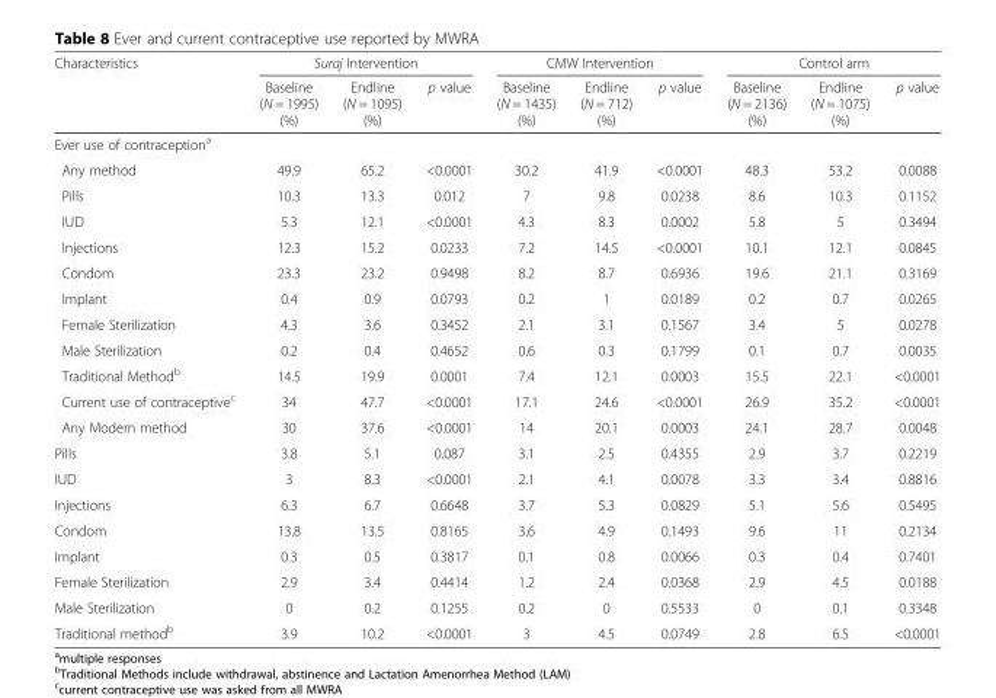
<table><thead><tr><td rowspan="2">Characteristics</td><td colspan="3">Suraj Intervention</td><td colspan="3">CMW Intervention</td><td colspan="3">Control arm</td></tr><tr><td>Baseline (N = 1995) (%)</td><td>Endline (N = 1095) (%)</td><td>p value</td><td>Baseline (N = 1435) (%)</td><td>Endline (N = 712) (%)</td><td>p value</td><td>Baseline (N = 2136) (%)</td><td>Endline (N = 1075) (%)</td><td>p value</td></tr></thead><tbody><tr><td colspan="10">Ever use of contraception<sup>a</sup></td></tr><tr><td>Any method</td><td>49.9</td><td>65.2</td><td>&lt;0.0001</td><td>30.2</td><td>41.9</td><td>&lt;0.0001</td><td>48.3</td><td>53.2</td><td>0.0088</td></tr><tr><td>Pills</td><td>10.3</td><td>13.3</td><td>0.012</td><td>7</td><td>9.8</td><td>0.0238</td><td>8.6</td><td>10.3</td><td>0.1152</td></tr><tr><td>IUD</td><td>5.3</td><td>12.1</td><td>&lt;0.0001</td><td>4.3</td><td>8.3</td><td>0.0002</td><td>5.8</td><td>5</td><td>0.3494</td></tr><tr><td>Injections</td><td>12.3</td><td>15.2</td><td>0.0233</td><td>7.2</td><td>14.5</td><td>&lt;0.0001</td><td>10.1</td><td>12.1</td><td>0.0845</td></tr><tr><td>Condom</td><td>23.3</td><td>23.2</td><td>0.9498</td><td>8.2</td><td>8.7</td><td>0.6936</td><td>19.6</td><td>21.1</td><td>0.3169</td></tr><tr><td>Implant</td><td>0.4</td><td>0.9</td><td>0.0793</td><td>0.2</td><td>1</td><td>0.0189</td><td>0.2</td><td>0.7</td><td>0.0265</td></tr><tr><td>Female Sterilization</td><td>4.3</td><td>3.6</td><td>0.3452</td><td>2.1</td><td>3.1</td><td>0.1567</td><td>3.4</td><td>5</td><td>0.0278</td></tr><tr><td>Male Sterilization</td><td>0.2</td><td>0.4</td><td>0.4652</td><td>0.6</td><td>0.3</td><td>0.1799</td><td>0.1</td><td>0.7</td><td>0.0035</td></tr><tr><td>Traditional Method<sup>b</sup></td><td>14.5</td><td>19.9</td><td>0.0001</td><td>7.4</td><td>12.1</td><td>0.0003</td><td>15.5</td><td>22.1</td><td>&lt;0.0001</td></tr><tr><td>Current use of contraceptive<sup>c</sup></td><td>34</td><td>47.7</td><td>&lt;0.0001</td><td>17.1</td><td>24.6</td><td>&lt;0.0001</td><td>26.9</td><td>35.2</td><td>&lt;0.0001</td></tr><tr><td>Any Modern method</td><td>30</td><td>37.6</td><td>&lt;0.0001</td><td>14</td><td>20.1</td><td>0.0003</td><td>24.1</td><td>28.7</td><td>0.0048</td></tr><tr><td>Pills</td><td>3.8</td><td>5.1</td><td>0.087</td><td>3.1</td><td>2.5</td><td>0.4355</td><td>2.9</td><td>3.7</td><td>0.2219</td></tr><tr><td>IUD</td><td>3</td><td>8.3</td><td>&lt;0.0001</td><td>2.1</td><td>4.1</td><td>0.0078</td><td>3.3</td><td>3.4</td><td>0.8816</td></tr><tr><td>Injections</td><td>6.3</td><td>6.7</td><td>0.6648</td><td>3.7</td><td>5.3</td><td>0.0829</td><td>5.1</td><td>5.6</td><td>0.5495</td></tr><tr><td>Condom</td><td>13.8</td><td>13.5</td><td>0.8165</td><td>3.6</td><td>4.9</td><td>0.1493</td><td>9.6</td><td>11</td><td>0.2134</td></tr><tr><td>Implant</td><td>0.3</td><td>0.5</td><td>0.3817</td><td>0.1</td><td>0.8</td><td>0.0066</td><td>0.3</td><td>0.4</td><td>0.7401</td></tr><tr><td>Female Sterilization</td><td>2.9</td><td>3.4</td><td>0.4414</td><td>1.2</td><td>2.4</td><td>0.0368</td><td>2.9</td><td>4.5</td><td>0.0188</td></tr><tr><td>Male Sterilization</td><td>0</td><td>0.2</td><td>0.1255</td><td>0.2</td><td>0</td><td>0.5533</td><td>0</td><td>0.1</td><td>0.3348</td></tr><tr><td>Traditional method<sup>b</sup></td><td>3.9</td><td>10.2</td><td>&lt;0.0001</td><td>3</td><td>4.5</td><td>0.0749</td><td>2.8</td><td>6.5</td><td>&lt;0.0001</td></tr></tbody></table>